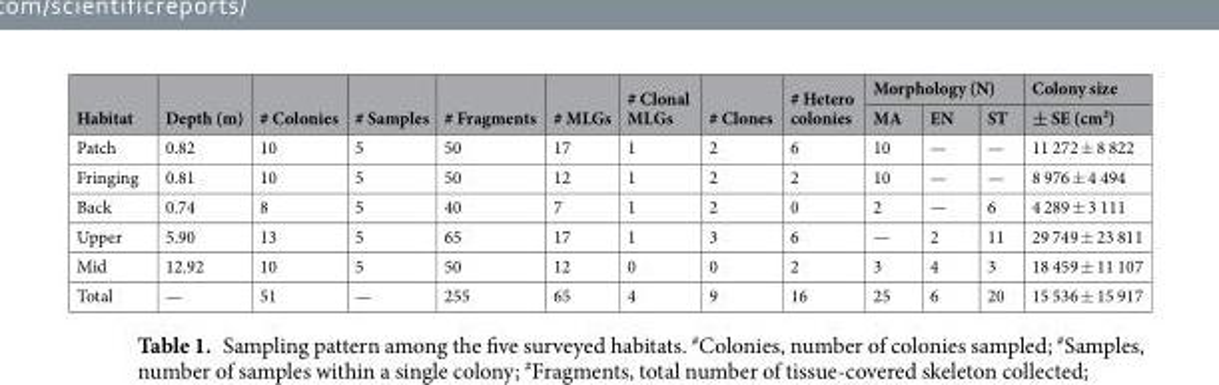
<table><thead><tr><td rowspan="2">Habitat</td><td rowspan="2">Depth (m)</td><td rowspan="2"># Colonies</td><td rowspan="2"># Samples</td><td rowspan="2"># Fragments</td><td rowspan="2"># MLGs</td><td rowspan="2"># Clonal MLGs</td><td rowspan="2"># Clones</td><td rowspan="2"># Hetero colonies</td><td colspan="3">Morphology (N)</td><td rowspan="2">Colony size ± SE (cm²)</td></tr><tr><td>MA</td><td>EN</td><td>ST</td></tr></thead><tbody><tr><td>Patch</td><td>0.82</td><td>10</td><td>5</td><td>50</td><td>17</td><td>1</td><td>2</td><td>6</td><td>10</td><td>—</td><td>—</td><td>11 272 ± 8 822</td></tr><tr><td>Fringing</td><td>0.81</td><td>10</td><td>5</td><td>50</td><td>12</td><td>1</td><td>2</td><td>2</td><td>10</td><td>—</td><td>—</td><td>8 976 ± 4 494</td></tr><tr><td>Back</td><td>0.74</td><td>8</td><td>5</td><td>40</td><td>7</td><td>1</td><td>2</td><td>0</td><td>2</td><td>—</td><td>6</td><td>4 289 ± 3 111</td></tr><tr><td>Upper</td><td>5.90</td><td>13</td><td>5</td><td>65</td><td>17</td><td>1</td><td>3</td><td>6</td><td>—</td><td>2</td><td>11</td><td>29 749 ± 23 811</td></tr><tr><td>Mid</td><td>12.92</td><td>10</td><td>5</td><td>50</td><td>12</td><td>0</td><td>0</td><td>2</td><td>3</td><td>4</td><td>3</td><td>18 459 ± 11 107</td></tr><tr><td>Total</td><td>—</td><td>51</td><td>—</td><td>255</td><td>65</td><td>4</td><td>9</td><td>16</td><td>25</td><td>6</td><td>20</td><td>15 536 ± 15 917</td></tr></tbody></table>